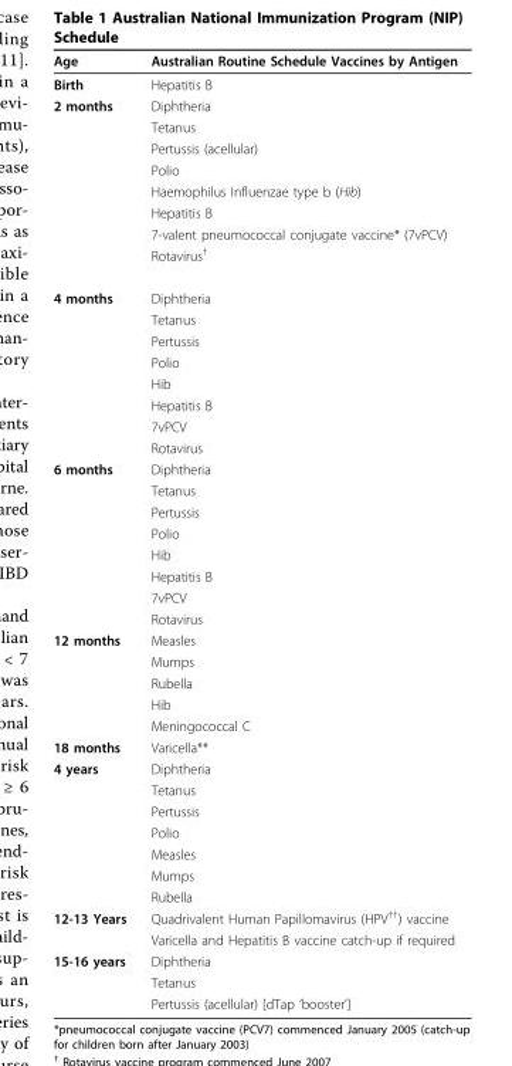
<table><thead><tr><td>Age</td><td>Australian Routine Schedule Vaccines by Antigen</td></tr></thead><tbody><tr><td>Birth</td><td>Hepatitis B</td></tr><tr><td rowspan="8">2 months</td><td>Diphtheria</td></tr><tr><td>Tetanus</td></tr><tr><td>Pertussis (acellular)</td></tr><tr><td>Polio</td></tr><tr><td>Haemophilus Influenzae type b (Hib)</td></tr><tr><td>Hepatitis B</td></tr><tr><td>7-valent pneumococcal conjugate vaccine* (7vPCV)</td></tr><tr><td>Rotavirus<sup>†</sup></td></tr><tr><td rowspan="8">4 months</td><td>Diphtheria</td></tr><tr><td>Tetanus</td></tr><tr><td>Pertussis</td></tr><tr><td>Polio</td></tr><tr><td>Hib</td></tr><tr><td>Hepatitis B</td></tr><tr><td>7vPCV</td></tr><tr><td>Rotavirus</td></tr><tr><td rowspan="8">6 months</td><td>Diphtheria</td></tr><tr><td>Tetanus</td></tr><tr><td>Pertussis</td></tr><tr><td>Polio</td></tr><tr><td>Hib</td></tr><tr><td>Hepatitis B</td></tr><tr><td>7vPCV</td></tr><tr><td>Rotavirus</td></tr><tr><td rowspan="5">12 months</td><td>Measles</td></tr><tr><td>Mumps</td></tr><tr><td>Rubella</td></tr><tr><td>Hib</td></tr><tr><td>Meningococcal C</td></tr><tr><td>18 months</td><td>Varicella**</td></tr><tr><td rowspan="7">4 years</td><td>Diphtheria</td></tr><tr><td>Tetanus</td></tr><tr><td>Pertussis</td></tr><tr><td>Polio</td></tr><tr><td>Measles</td></tr><tr><td>Mumps</td></tr><tr><td>Rubella</td></tr><tr><td rowspan="2">12-13 Years</td><td>Quadrivalent Human Papillomavirus (HPV<sup>††</sup>) vaccine</td></tr><tr><td>Varicella and Hepatitis B vaccine catch-up if required</td></tr><tr><td rowspan="3">15-16 years</td><td>Diphtheria</td></tr><tr><td>Tetanus</td></tr><tr><td>Pertussis (acellular) [dTap ‘booster’]</td></tr></tbody></table>